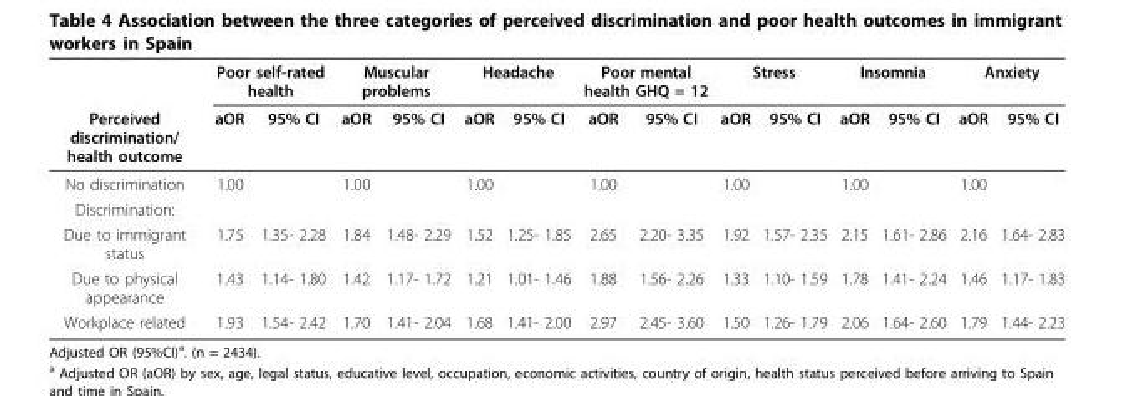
<table><thead><tr><td rowspan="2">Perceived discrimination/ health outcome</td><td colspan="2">Poor self-rated health</td><td colspan="2">Muscular problems</td><td colspan="2">Headache</td><td colspan="2">Poor mental health GHQ = 12</td><td colspan="2">Stress</td><td colspan="2">Insomnia</td><td colspan="2">Anxiety</td></tr><tr><td>aOR</td><td>95% CI</td><td>aOR</td><td>95% CI</td><td>aOR</td><td>95% CI</td><td>aOR</td><td>95% CI</td><td>aOR</td><td>95% CI</td><td>aOR</td><td>95% CI</td><td>aOR</td><td>95% CI</td></tr></thead><tbody><tr><td>No discrimination</td><td>1.00</td><td></td><td>1.00</td><td></td><td>1.00</td><td></td><td>1.00</td><td></td><td>1.00</td><td></td><td>1.00</td><td></td><td>1.00</td><td></td></tr><tr><td colspan="15">Discrimination:</td></tr><tr><td>Due to immigrant status</td><td>1.75</td><td>1.35- 2.28</td><td>1.84</td><td>1.48- 2.29</td><td>1.52</td><td>1.25- 1.85</td><td>2.65</td><td>2.20- 3.35</td><td>1.92</td><td>1.57- 2.35</td><td>2.15</td><td>1.61- 2.86</td><td>2.16</td><td>1.64- 2.83</td></tr><tr><td>Due to physical appearance</td><td>1.43</td><td>1.14- 1.80</td><td>1.42</td><td>1.17- 1.72</td><td>1.21</td><td>1.01- 1.46</td><td>1.88</td><td>1.56- 2.26</td><td>1.33</td><td>1.10- 1.59</td><td>1.78</td><td>1.41- 2.24</td><td>1.46</td><td>1.17- 1.83</td></tr><tr><td>Workplace related</td><td>1.93</td><td>1.54- 2.42</td><td>1.70</td><td>1.41- 2.04</td><td>1.68</td><td>1.41- 2.00</td><td>2.97</td><td>2.45- 3.60</td><td>1.50</td><td>1.26- 1.79</td><td>2.06</td><td>1.64- 2.60</td><td>1.79</td><td>1.44- 2.23</td></tr></tbody></table>